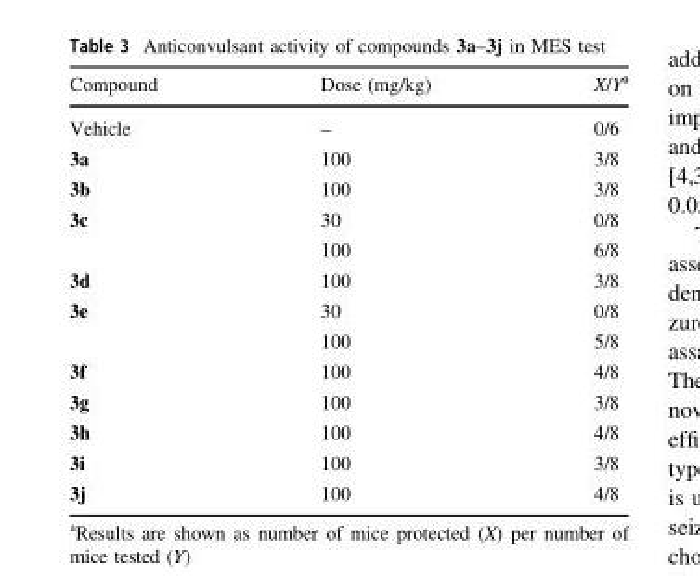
<table><thead><tr><td>Compound</td><td>Dose (mg/kg)</td><td>X/Y<sup>a</sup></td></tr></thead><tbody><tr><td>Vehicle</td><td>–</td><td>0/6</td></tr><tr><td>3a</td><td>100</td><td>3/8</td></tr><tr><td>3b</td><td>100</td><td>3/8</td></tr><tr><td rowspan="2">3c</td><td>30</td><td>0/8</td></tr><tr><td>100</td><td>6/8</td></tr><tr><td>3d</td><td>100</td><td>3/8</td></tr><tr><td rowspan="2">3e</td><td>30</td><td>0/8</td></tr><tr><td>100</td><td>5/8</td></tr><tr><td>3f</td><td>100</td><td>4/8</td></tr><tr><td>3g</td><td>100</td><td>3/8</td></tr><tr><td>3h</td><td>100</td><td>4/8</td></tr><tr><td>3i</td><td>100</td><td>3/8</td></tr><tr><td>3j</td><td>100</td><td>4/8</td></tr></tbody></table>